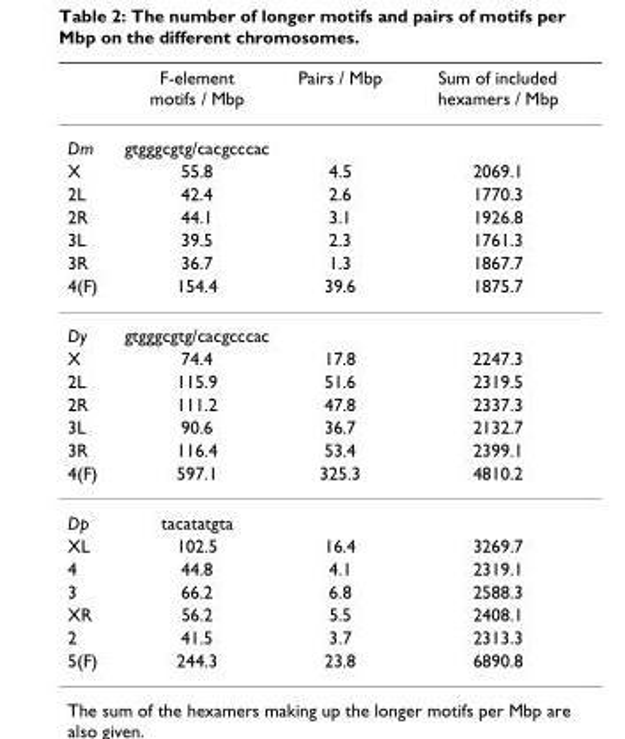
<table><thead><tr><td></td><td>F-element motifs / Mbp</td><td>Pairs / Mbp</td><td>Sum of included hexamers / Mbp</td></tr></thead><tbody><tr><td>Dm</td><td>gtgggcgtg/cacgcccac</td><td></td><td></td></tr><tr><td>X</td><td>55.8</td><td>4.5</td><td>2069.1</td></tr><tr><td>2L</td><td>42.4</td><td>2.6</td><td>1770.3</td></tr><tr><td>2R</td><td>44.1</td><td>3.1</td><td>1926.8</td></tr><tr><td>3L</td><td>39.5</td><td>2.3</td><td>1761.3</td></tr><tr><td>3R</td><td>36.7</td><td>1.3</td><td>1867.7</td></tr><tr><td>4(F)</td><td>154.4</td><td>39.6</td><td>1875.7</td></tr><tr><td>Dy</td><td>gtgggcgtg/cacgcccac</td><td></td><td></td></tr><tr><td>X</td><td>74.4</td><td>17.8</td><td>2247.3</td></tr><tr><td>2L</td><td>115.9</td><td>51.6</td><td>2319.5</td></tr><tr><td>2R</td><td>111.2</td><td>47.8</td><td>2337.3</td></tr><tr><td>3L</td><td>90.6</td><td>36.7</td><td>2132.7</td></tr><tr><td>3R</td><td>116.4</td><td>53.4</td><td>2399.1</td></tr><tr><td>4(F)</td><td>597.1</td><td>325.3</td><td>4810.2</td></tr><tr><td>Dp</td><td>tacatatgta</td><td></td><td></td></tr><tr><td>XL</td><td>102.5</td><td>16.4</td><td>3269.7</td></tr><tr><td>4</td><td>44.8</td><td>4.1</td><td>2319.1</td></tr><tr><td>3</td><td>66.2</td><td>6.8</td><td>2588.3</td></tr><tr><td>XR</td><td>56.2</td><td>5.5</td><td>2408.1</td></tr><tr><td>2</td><td>41.5</td><td>3.7</td><td>2313.3</td></tr><tr><td>5(F)</td><td>244.3</td><td>23.8</td><td>6890.8</td></tr></tbody></table>